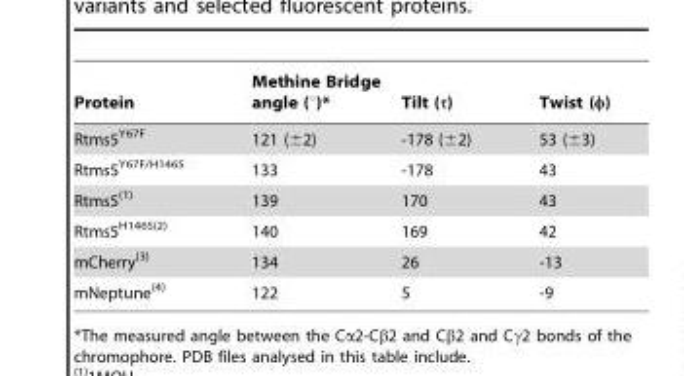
<table><thead><tr><td>Protein</td><td>Methine Bridge angle (°)*</td><td>Tilt (τ)</td><td>Twist (φ)</td></tr></thead><tbody><tr><td>Rtms5<sup>Y67F</sup></td><td>121 (±2)</td><td>-178 (±2)</td><td>53 (±3)</td></tr><tr><td>Rtms5<sup>Y67F/H146S</sup></td><td>133</td><td>-178</td><td>43</td></tr><tr><td>Rtms5(1)</td><td>139</td><td>170</td><td>43</td></tr><tr><td>Rtms5<sup>H146S(2)</sup></td><td>140</td><td>169</td><td>42</td></tr><tr><td>mCherry(3)</td><td>134</td><td>26</td><td>-13</td></tr><tr><td>mNeptune(4)</td><td>122</td><td>5</td><td>-9</td></tr></tbody></table>